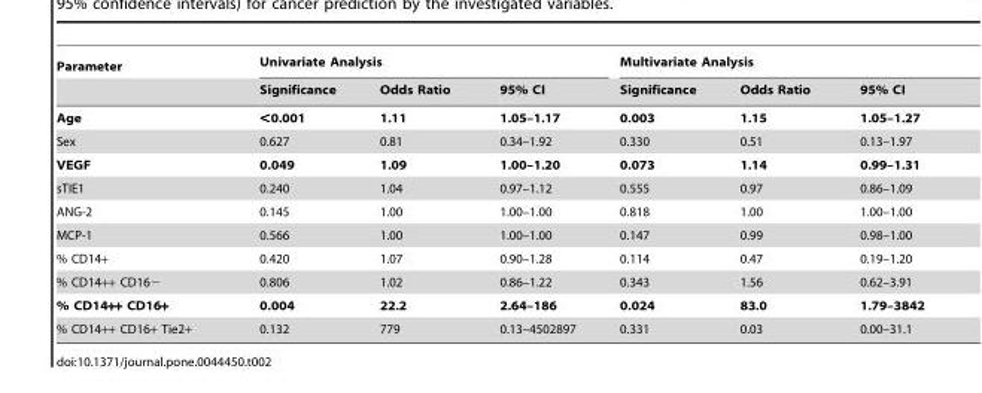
<table><thead><tr><td rowspan="2">Parameter</td><td colspan="3">Univariate Analysis</td><td colspan="3">Multivariate Analysis</td></tr><tr><td>Significance</td><td>Odds Ratio</td><td>95% CI</td><td>Significance</td><td>Odds Ratio</td><td>95% CI</td></tr></thead><tbody><tr><td>Age</td><td>&lt;0.001</td><td>1.11</td><td>1.05–1.17</td><td>0.003</td><td>1.15</td><td>1.05–1.27</td></tr><tr><td>Sex</td><td>0.627</td><td>0.81</td><td>0.34–1.92</td><td>0.330</td><td>0.51</td><td>0.13–1.97</td></tr><tr><td>VEGF</td><td>0.049</td><td>1.09</td><td>1.00–1.20</td><td>0.073</td><td>1.14</td><td>0.99–1.31</td></tr><tr><td>sTIE1</td><td>0.240</td><td>1.04</td><td>0.97–1.12</td><td>0.555</td><td>0.97</td><td>0.86–1.09</td></tr><tr><td>ANG-2</td><td>0.145</td><td>1.00</td><td>1.00–1.00</td><td>0.818</td><td>1.00</td><td>1.00–1.00</td></tr><tr><td>MCP-1</td><td>0.566</td><td>1.00</td><td>1.00–1.00</td><td>0.147</td><td>0.99</td><td>0.98–1.00</td></tr><tr><td>% CD14+</td><td>0.420</td><td>1.07</td><td>0.90–1.28</td><td>0.114</td><td>0.47</td><td>0.19–1.20</td></tr><tr><td>% CD14++ CD16−</td><td>0.806</td><td>1.02</td><td>0.86–1.22</td><td>0.343</td><td>1.56</td><td>0.62–3.91</td></tr><tr><td>% CD14++ CD16+</td><td>0.004</td><td>22.2</td><td>2.64–186</td><td>0.024</td><td>83.0</td><td>1.79–3842</td></tr><tr><td>% CD14++ CD16+ Tie2+</td><td>0.132</td><td>779</td><td>0.13–4502897</td><td>0.331</td><td>0.03</td><td>0.00–31.1</td></tr></tbody></table>